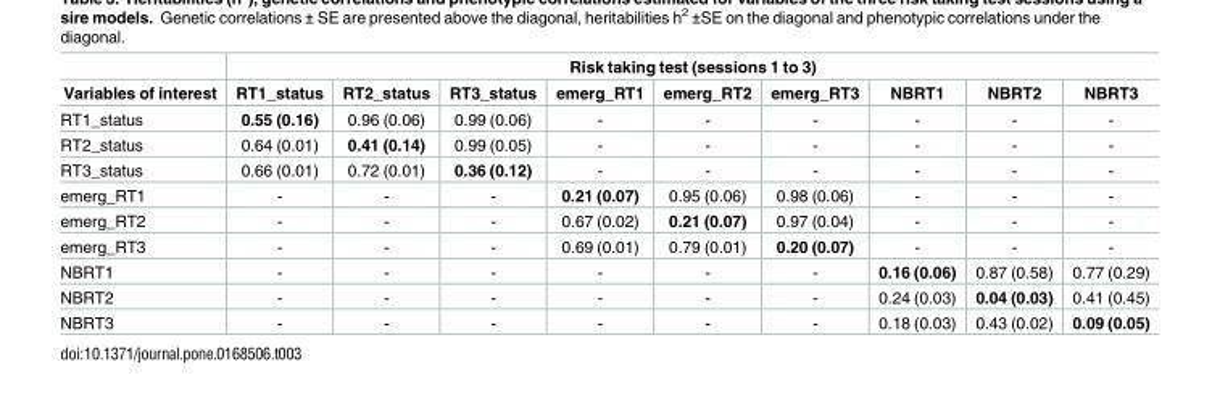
<table><thead><tr><td rowspan="2">Variables of interest</td><td colspan="9">Risk taking test (sessions 1 to 3)</td></tr><tr><td>RT1_status</td><td>RT2_status</td><td>RT3_status</td><td>emerg_RT1</td><td>emerg_RT2</td><td>emerg_RT3</td><td>NBRT1</td><td>NBRT2</td><td>NBRT3</td></tr></thead><tbody><tr><td>RT1_status</td><td>0.55 (0.16)</td><td>0.96 (0.06)</td><td>0.99 (0.06)</td><td>-</td><td>-</td><td>-</td><td>-</td><td>-</td><td>-</td></tr><tr><td>RT2_status</td><td>0.64 (0.01)</td><td>0.41 (0.14)</td><td>0.99 (0.05)</td><td>-</td><td>-</td><td>-</td><td>-</td><td>-</td><td>-</td></tr><tr><td>RT3_status</td><td>0.66 (0.01)</td><td>0.72 (0.01)</td><td>0.36 (0.12)</td><td>-</td><td>-</td><td>-</td><td>-</td><td>-</td><td>-</td></tr><tr><td>emerg_RT1</td><td>-</td><td>-</td><td>-</td><td>0.21 (0.07)</td><td>0.95 (0.06)</td><td>0.98 (0.06)</td><td>-</td><td>-</td><td>-</td></tr><tr><td>emerg_RT2</td><td>-</td><td>-</td><td>-</td><td>0.67 (0.02)</td><td>0.21 (0.07)</td><td>0.97 (0.04)</td><td>-</td><td>-</td><td>-</td></tr><tr><td>emerg_RT3</td><td>-</td><td>-</td><td>-</td><td>0.69 (0.01)</td><td>0.79 (0.01)</td><td>0.20 (0.07)</td><td>-</td><td>-</td><td>-</td></tr><tr><td>NBRT1</td><td>-</td><td>-</td><td>-</td><td>-</td><td>-</td><td>-</td><td>0.16 (0.06)</td><td>0.87 (0.58)</td><td>0.77 (0.29)</td></tr><tr><td>NBRT2</td><td>-</td><td>-</td><td>-</td><td>-</td><td>-</td><td>-</td><td>0.24 (0.03)</td><td>0.04 (0.03)</td><td>0.41 (0.45)</td></tr><tr><td>NBRT3</td><td>-</td><td>-</td><td>-</td><td>-</td><td>-</td><td>-</td><td>0.18 (0.03)</td><td>0.43 (0.02)</td><td>0.09 (0.05)</td></tr></tbody></table>